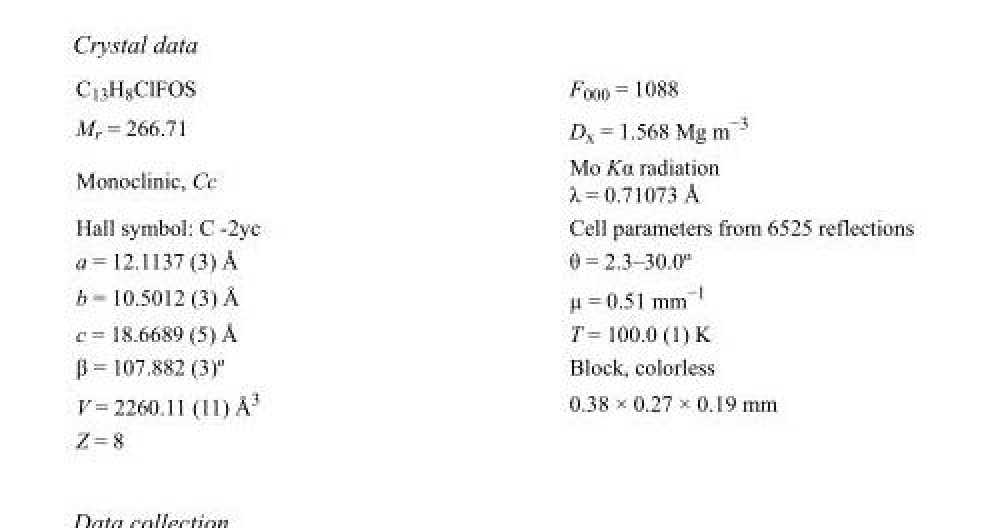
<table><tbody><tr><td>C<sub>13</sub>H<sub>8</sub>ClFOS</td><td>F<sub>000</sub> = 1088</td></tr><tr><td>M<sub>r</sub> = 266.71</td><td>D<sub>x</sub> = 1.568 Mg m<sup>−3</sup></td></tr><tr><td>Monoclinic, Cc</td><td>Mo Kα radiation λ = 0.71073 Å</td></tr><tr><td>Hall symbol: C -2yc</td><td>Cell parameters from 6525 reflections</td></tr><tr><td>a = 12.1137 (3) Å</td><td>θ = 2.3–30.0º</td></tr><tr><td>b = 10.5012 (3) Å</td><td>µ = 0.51 mm<sup>−1</sup></td></tr><tr><td>c = 18.6689 (5) Å</td><td>T = 100.0 (1) K</td></tr><tr><td>β = 107.882 (3)º</td><td>Block, colorless</td></tr><tr><td>V = 2260.11 (11) Å<sup>3</sup></td><td>0.38 × 0.27 × 0.19 mm</td></tr><tr><td>Z = 8</td><td></td></tr></tbody></table>